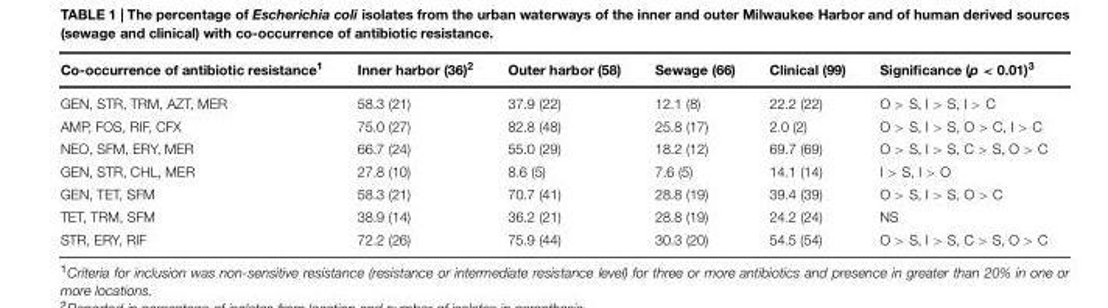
<table><thead><tr><td>Co-occurrence of antibiotic resistance<sup>1</sup></td><td>Inner harbor (36)<sup>2</sup></td><td>Outer harbor (58)</td><td>Sewage (66)</td><td>Clinical (99)</td><td>Significance (p &lt; 0.01)<sup>3</sup></td></tr></thead><tbody><tr><td>GEN, STR, TRM, AZT, MER</td><td>58.3 (21)</td><td>37.9 (22)</td><td>12.1 (8)</td><td>22.2 (22)</td><td>O &gt; S, I &gt; S, I &gt; C</td></tr><tr><td>AMP, FOS, RIF, CFX</td><td>75.0 (27)</td><td>82.8 (48)</td><td>25.8 (17)</td><td>2.0 (2)</td><td>O &gt; S, I &gt; S, O &gt; C, I &gt; C</td></tr><tr><td>NEO, SFM, ERY, MER</td><td>66.7 (24)</td><td>55.0 (29)</td><td>18.2 (12)</td><td>69.7 (69)</td><td>O &gt; S, I &gt; S, C &gt; S, O &gt; C</td></tr><tr><td>GEN, STR, CHL, MER</td><td>27.8 (10)</td><td>8.6 (5)</td><td>7.6 (5)</td><td>14.1 (14)</td><td>I &gt; S, I &gt; O</td></tr><tr><td>GEN, TET, SFM</td><td>58.3 (21)</td><td>70.7 (41)</td><td>28.8 (19)</td><td>39.4 (39)</td><td>O &gt; S, I &gt; S, O &gt; C</td></tr><tr><td>TET, TRM, SFM</td><td>38.9 (14)</td><td>36.2 (21)</td><td>28.8 (19)</td><td>24.2 (24)</td><td>NS</td></tr><tr><td>STR, ERY, RIF</td><td>72.2 (26)</td><td>75.9 (44)</td><td>30.3 (20)</td><td>54.5 (54)</td><td>O &gt; S, I &gt; S, C &gt; S, O &gt; C</td></tr></tbody></table>